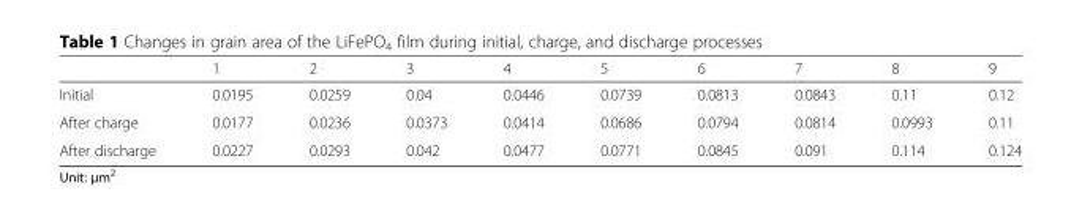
<table><thead><tr><td></td><td>1</td><td>2</td><td>3</td><td>4</td><td>5</td><td>6</td><td>7</td><td>8</td><td>9</td></tr></thead><tbody><tr><td>Initial</td><td>0.0195</td><td>0.0259</td><td>0.04</td><td>0.0446</td><td>0.0739</td><td>0.0813</td><td>0.0843</td><td>0.11</td><td>0.12</td></tr><tr><td>After charge</td><td>0.0177</td><td>0.0236</td><td>0.0373</td><td>0.0414</td><td>0.0686</td><td>0.0794</td><td>0.0814</td><td>0.0993</td><td>0.11</td></tr><tr><td>After discharge</td><td>0.0227</td><td>0.0293</td><td>0.042</td><td>0.0477</td><td>0.0771</td><td>0.0845</td><td>0.091</td><td>0.114</td><td>0.124</td></tr></tbody></table>